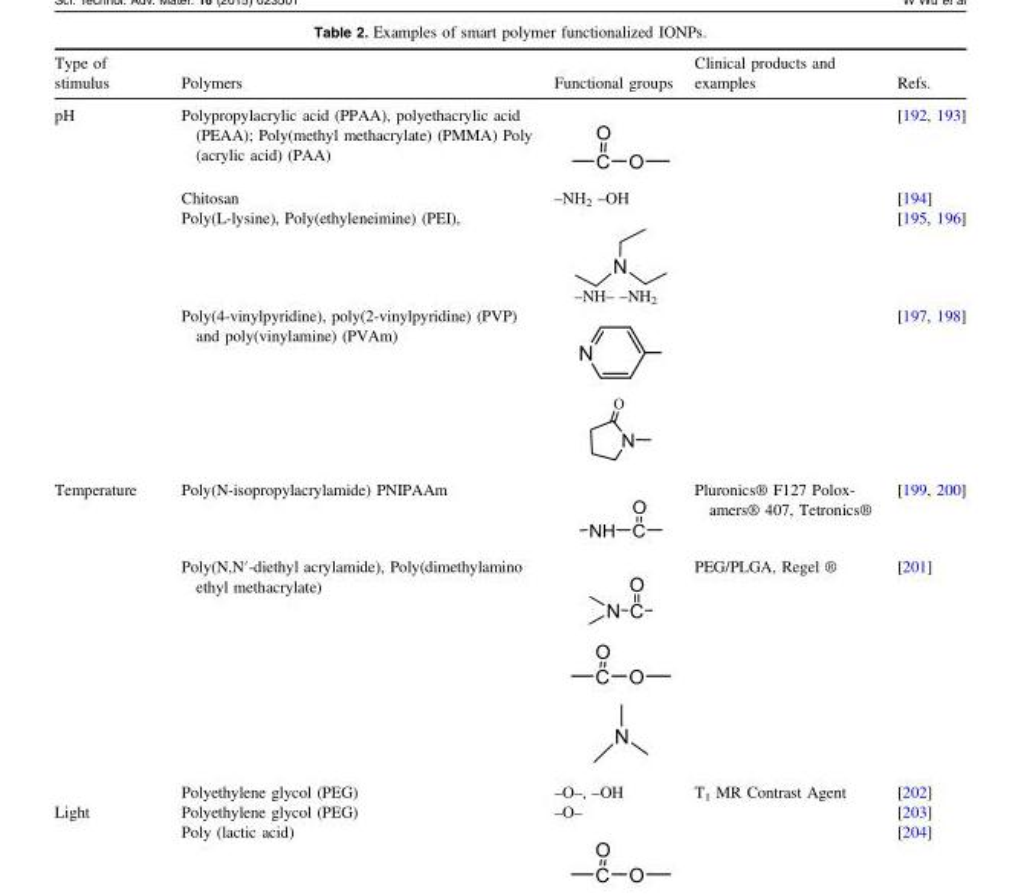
<table><thead><tr><td>Type of stimulus</td><td>Polymers</td><td>Functional groups</td><td>Clinical products and examples</td><td>Refs.</td></tr></thead><tbody><tr><td rowspan="4">pH</td><td>Polypropylacrylic acid (PPAA), polyethacrylic acid (PEAA); Poly(methyl methacrylate) (PMMA) Poly (acrylic acid) (PAA)</td><td></td><td></td><td>[192, 193]</td></tr><tr><td>Chitosan</td><td>–NH<sub>2</sub> –OH</td><td></td><td>[194]</td></tr><tr><td>Poly(L-lysine), Poly(ethyleneimine) (PEI),</td><td>–NH– –NH<sub>2</sub></td><td></td><td>[195, 196]</td></tr><tr><td>Poly(4-vinylpyridine), poly(2-vinylpyridine) (PVP) and poly(vinylamine) (PVAm)</td><td></td><td></td><td>[197, 198]</td></tr><tr><td rowspan="3">Temperature</td><td>Poly(N-isopropylacrylamide) PNIPAAm</td><td></td><td>Pluronics® F127 Polox- amers® 407, Tetronics®</td><td>[199, 200]</td></tr><tr><td>Poly(N,N′-diethyl acrylamide), Poly(dimethylamino ethyl methacrylate)</td><td></td><td>PEG/PLGA, Regel ®</td><td>[201]</td></tr><tr><td>Polyethylene glycol (PEG)</td><td>–O–, –OH</td><td>T<sub>1</sub> MR Contrast Agent</td><td>[202]</td></tr><tr><td rowspan="2">Light</td><td>Polyethylene glycol (PEG)</td><td>–O–</td><td></td><td>[203]</td></tr><tr><td>Poly (lactic acid)</td><td></td><td></td><td>[204]</td></tr></tbody></table>